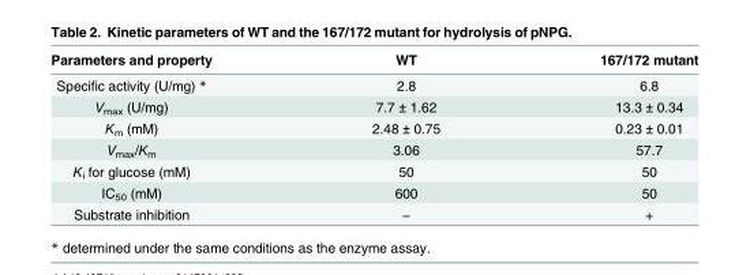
<table><thead><tr><td>Parameters and property</td><td>WT</td><td>167/172 mutant</td></tr></thead><tbody><tr><td>Specific activity (U/mg) *</td><td>2.8</td><td>6.8</td></tr><tr><td>V<sub>max</sub> (U/mg)</td><td>7.7 ± 1.62</td><td>13.3 ± 0.34</td></tr><tr><td>K<sub>m</sub> (mM)</td><td>2.48 ± 0.75</td><td>0.23 ± 0.01</td></tr><tr><td>V<sub>max</sub>/K<sub>m</sub></td><td>3.06</td><td>57.7</td></tr><tr><td>K<sub>i</sub> for glucose (mM)</td><td>50</td><td>50</td></tr><tr><td>IC<sub>50</sub> (mM)</td><td>600</td><td>50</td></tr><tr><td>Substrate inhibition</td><td>−</td><td>+</td></tr></tbody></table>